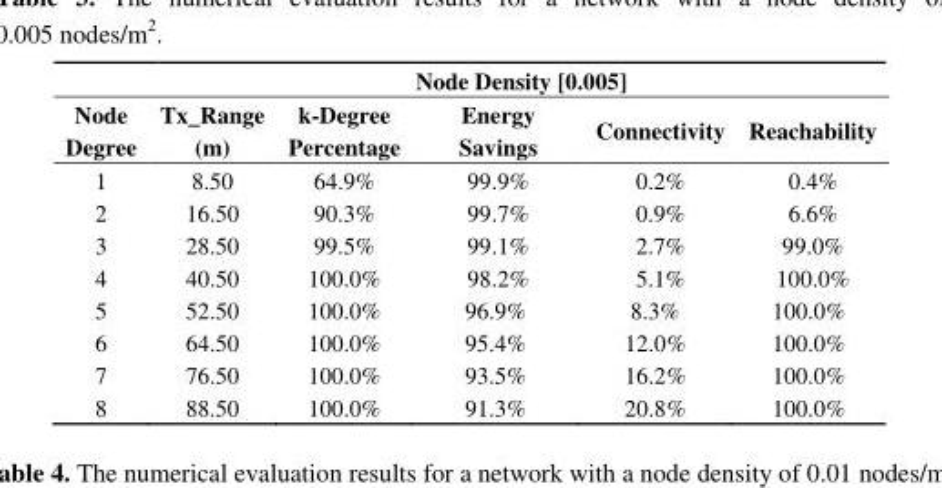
<table><thead><tr><td rowspan="2">Node Degree</td><td colspan="5">Node Density [0.005]</td></tr><tr><td>Tx_Range (m)</td><td>k-Degree Percentage</td><td>Energy Savings</td><td>Connectivity</td><td>Reachability</td></tr></thead><tbody><tr><td>1</td><td>8.50</td><td>64.9%</td><td>99.9%</td><td>0.2%</td><td>0.4%</td></tr><tr><td>2</td><td>16.50</td><td>90.3%</td><td>99.7%</td><td>0.9%</td><td>6.6%</td></tr><tr><td>3</td><td>28.50</td><td>99.5%</td><td>99.1%</td><td>2.7%</td><td>99.0%</td></tr><tr><td>4</td><td>40.50</td><td>100.0%</td><td>98.2%</td><td>5.1%</td><td>100.0%</td></tr><tr><td>5</td><td>52.50</td><td>100.0%</td><td>96.9%</td><td>8.3%</td><td>100.0%</td></tr><tr><td>6</td><td>64.50</td><td>100.0%</td><td>95.4%</td><td>12.0%</td><td>100.0%</td></tr><tr><td>7</td><td>76.50</td><td>100.0%</td><td>93.5%</td><td>16.2%</td><td>100.0%</td></tr><tr><td>8</td><td>88.50</td><td>100.0%</td><td>91.3%</td><td>20.8%</td><td>100.0%</td></tr></tbody></table>